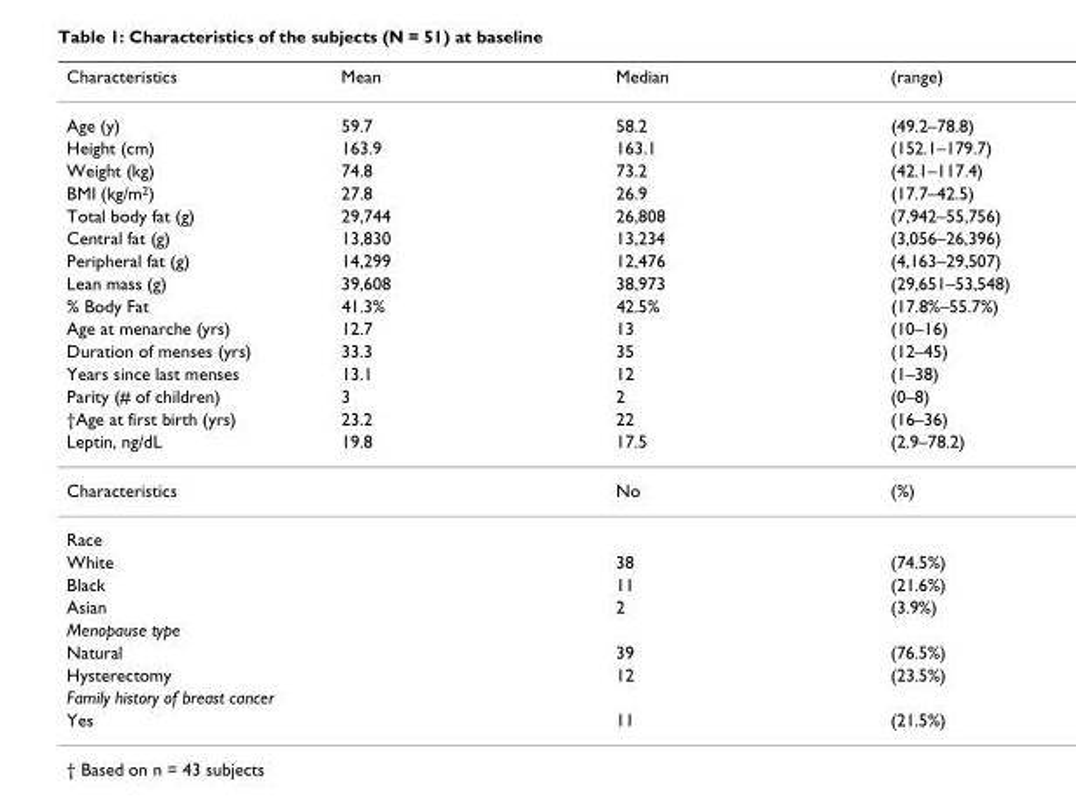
<table><thead><tr><td>Characteristics</td><td>Mean</td><td>Median</td><td>(range)</td></tr></thead><tbody><tr><td>Age (y)</td><td>59.7</td><td>58.2</td><td>(49.2–78.8)</td></tr><tr><td>Height (cm)</td><td>163.9</td><td>163.1</td><td>(152.1–179.7)</td></tr><tr><td>Weight (kg)</td><td>74.8</td><td>73.2</td><td>(42.1–117.4)</td></tr><tr><td>BMI (kg/m<sup>2</sup>)</td><td>27.8</td><td>26.9</td><td>(17.7–42.5)</td></tr><tr><td>Total body fat (g)</td><td>29,744</td><td>26,808</td><td>(7,942–55,756)</td></tr><tr><td>Central fat (g)</td><td>13,830</td><td>13,234</td><td>(3,056–26,396)</td></tr><tr><td>Peripheral fat (g)</td><td>14,299</td><td>12,476</td><td>(4,163–29,507)</td></tr><tr><td>Lean mass (g)</td><td>39,608</td><td>38,973</td><td>(29,651–53,548)</td></tr><tr><td>% Body Fat</td><td>41.3%</td><td>42.5%</td><td>(17.8%–55.7%)</td></tr><tr><td>Age at menarche (yrs)</td><td>12.7</td><td>13</td><td>(10–16)</td></tr><tr><td>Duration of menses (yrs)</td><td>33.3</td><td>35</td><td>(12–45)</td></tr><tr><td>Years since last menses</td><td>13.1</td><td>12</td><td>(1–38)</td></tr><tr><td>Parity (# of children)</td><td>3</td><td>2</td><td>(0–8)</td></tr><tr><td>†Age at first birth (yrs)</td><td>23.2</td><td>22</td><td>(16–36)</td></tr><tr><td>Leptin, ng/dL</td><td>19.8</td><td>17.5</td><td>(2.9–78.2)</td></tr><tr><td>Characteristics</td><td></td><td>No</td><td>(%)</td></tr><tr><td colspan="4">Race</td></tr><tr><td>White</td><td></td><td>38</td><td>(74.5%)</td></tr><tr><td>Black</td><td></td><td>11</td><td>(21.6%)</td></tr><tr><td>Asian</td><td></td><td>2</td><td>(3.9%)</td></tr><tr><td colspan="4">Menopause type</td></tr><tr><td>Natural</td><td></td><td>39</td><td>(76.5%)</td></tr><tr><td>Hysterectomy</td><td></td><td>12</td><td>(23.5%)</td></tr><tr><td colspan="4">Family history of breast cancer</td></tr><tr><td>Yes</td><td></td><td>11</td><td>(21.5%)</td></tr></tbody></table>